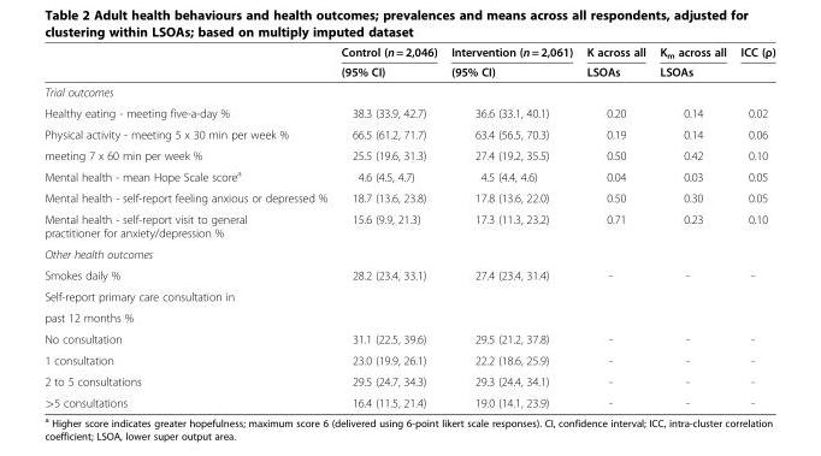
<table><thead><tr><td rowspan="2"></td><td rowspan="2">Control (n = 2,046) (95% CI)</td><td rowspan="2">Intervention (n = 2,061) (95% CI)</td><td rowspan="2">K across all LSOAs</td><td rowspan="2">K<sub>m</sub> across all LSOAs</td><td rowspan="2">ICC (ρ)</td></tr><tr></tr></thead><tbody><tr><td colspan="6">Trial outcomes</td></tr><tr><td>Healthy eating - meeting five-a-day %</td><td>38.3 (33.9, 42.7)</td><td>36.6 (33.1, 40.1)</td><td>0.20</td><td>0.14</td><td>0.02</td></tr><tr><td>Physical activity - meeting 5 x 30 min per week %</td><td>66.5 (61.2, 71.7)</td><td>63.4 (56.5, 70.3)</td><td>0.19</td><td>0.14</td><td>0.06</td></tr><tr><td>meeting 7 x 60 min per week %</td><td>25.5 (19.6, 31.3)</td><td>27.4 (19.2, 35.5)</td><td>0.50</td><td>0.42</td><td>0.10</td></tr><tr><td>Mental health - mean Hope Scale score<sup>a</sup></td><td>4.6 (4.5, 4.7)</td><td>4.5 (4.4, 4.6)</td><td>0.04</td><td>0.03</td><td>0.05</td></tr><tr><td>Mental health - self-report feeling anxious or depressed %</td><td>18.7 (13.6, 23.8)</td><td>17.8 (13.6, 22.0)</td><td>0.50</td><td>0.30</td><td>0.05</td></tr><tr><td>Mental health - self-report visit to general practitioner for anxiety/depression %</td><td>15.6 (9.9, 21.3)</td><td>17.3 (11.3, 23.2)</td><td>0.71</td><td>0.23</td><td>0.10</td></tr><tr><td colspan="6">Other health outcomes</td></tr><tr><td>Smokes daily %</td><td>28.2 (23.4, 33.1)</td><td>27.4 (23.4, 31.4)</td><td>-</td><td>-</td><td>-</td></tr><tr><td colspan="6">Self-report primary care consultation in</td></tr><tr><td colspan="6">past 12 months %</td></tr><tr><td>No consultation</td><td>31.1 (22.5, 39.6)</td><td>29.5 (21.2, 37.8)</td><td>-</td><td>-</td><td>-</td></tr><tr><td>1 consultation</td><td>23.0 (19.9, 26.1)</td><td>22.2 (18.6, 25.9)</td><td>-</td><td>-</td><td>-</td></tr><tr><td>2 to 5 consultations</td><td>29.5 (24.7, 34.3)</td><td>29.3 (24.4, 34.1)</td><td>-</td><td>-</td><td>-</td></tr><tr><td>&gt;5 consultations</td><td>16.4 (11.5, 21.4)</td><td>19.0 (14.1, 23.9)</td><td>-</td><td>-</td><td>-</td></tr></tbody></table>